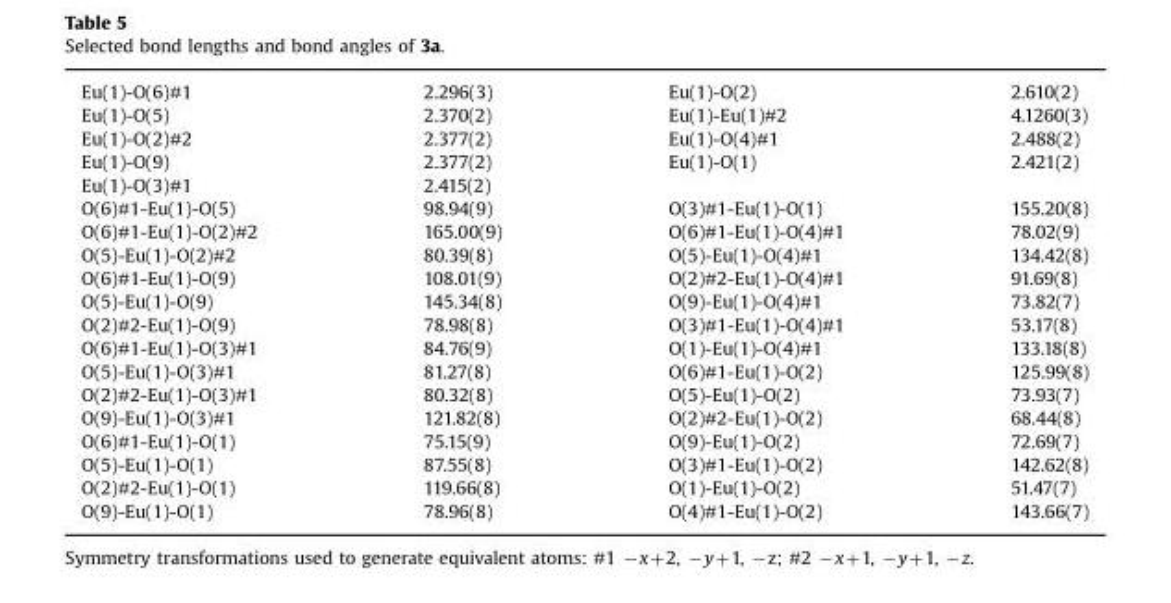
<table><tbody><tr><td>Eu(1)-O(6)#1</td><td>2.296(3)</td><td>Eu(1)-O(2)</td><td>2.610(2)</td></tr><tr><td>Eu(1)-O(5)</td><td>2.370(2)</td><td>Eu(1)-Eu(1)#2</td><td>4.1260(3)</td></tr><tr><td>Eu(1)-O(2)#2</td><td>2.377(2)</td><td>Eu(1)-O(4)#1</td><td>2.488(2)</td></tr><tr><td>Eu(1)-O(9)</td><td>2.377(2)</td><td>Eu(1)-O(1)</td><td>2.421(2)</td></tr><tr><td>Eu(1)-O(3)#1</td><td>2.415(2)</td><td></td><td></td></tr><tr><td>O(6)#1-Eu(1)-O(5)</td><td>98.94(9)</td><td>O(3)#1-Eu(1)-O(1)</td><td>155.20(8)</td></tr><tr><td>O(6)#1-Eu(1)-O(2)#2</td><td>165.00(9)</td><td>O(6)#1-Eu(1)-O(4)#1</td><td>78.02(9)</td></tr><tr><td>O(5)-Eu(1)-O(2)#2</td><td>80.39(8)</td><td>O(5)-Eu(1)-O(4)#1</td><td>134.42(8)</td></tr><tr><td>O(6)#1-Eu(1)-O(9)</td><td>108.01(9)</td><td>O(2)#2-Eu(1)-O(4)#1</td><td>91.69(8)</td></tr><tr><td>O(5)-Eu(1)-O(9)</td><td>145.34(8)</td><td>O(9)-Eu(1)-O(4)#1</td><td>73.82(7)</td></tr><tr><td>O(2)#2-Eu(1)-O(9)</td><td>78.98(8)</td><td>O(3)#1-Eu(1)-O(4)#1</td><td>53.17(8)</td></tr><tr><td>O(6)#1-Eu(1)-O(3)#1</td><td>84.76(9)</td><td>O(1)-Eu(1)-O(4)#1</td><td>133.18(8)</td></tr><tr><td>O(5)-Eu(1)-O(3)#1</td><td>81.27(8)</td><td>O(6)#1-Eu(1)-O(2)</td><td>125.99(8)</td></tr><tr><td>O(2)#2-Eu(1)-O(3)#1</td><td>80.32(8)</td><td>O(5)-Eu(1)-O(2)</td><td>73.93(7)</td></tr><tr><td>O(9)-Eu(1)-O(3)#1</td><td>121.82(8)</td><td>O(2)#2-Eu(1)-O(2)</td><td>68.44(8)</td></tr><tr><td>O(6)#1-Eu(1)-O(1)</td><td>75.15(9)</td><td>O(9)-Eu(1)-O(2)</td><td>72.69(7)</td></tr><tr><td>O(5)-Eu(1)-O(1)</td><td>87.55(8)</td><td>O(3)#1-Eu(1)-O(2)</td><td>142.62(8)</td></tr><tr><td>O(2)#2-Eu(1)-O(1)</td><td>119.66(8)</td><td>O(1)-Eu(1)-O(2)</td><td>51.47(7)</td></tr><tr><td>O(9)-Eu(1)-O(1)</td><td>78.96(8)</td><td>O(4)#1-Eu(1)-O(2)</td><td>143.66(7)</td></tr></tbody></table>